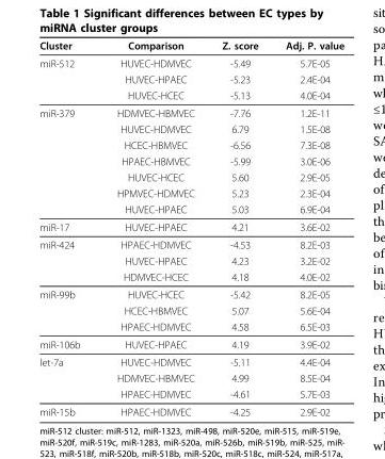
<table><thead><tr><td>Cluster</td><td>Comparison</td><td>Z. score</td><td>Adj. P. value</td></tr></thead><tbody><tr><td rowspan="3">miR-512</td><td>HUVEC-HDMVEC</td><td>-5.49</td><td>5.7E-05</td></tr><tr><td>HUVEC-HPAEC</td><td>-5.23</td><td>2.4E-04</td></tr><tr><td>HUVEC-HCEC</td><td>-5.13</td><td>4.0E-04</td></tr><tr><td rowspan="7">miR-379</td><td>HDMVEC-HBMVEC</td><td>-7.76</td><td>1.2E-11</td></tr><tr><td>HUVEC-HDMVEC</td><td>6.79</td><td>1.5E-08</td></tr><tr><td>HCEC-HBMVEC</td><td>-6.56</td><td>7.3E-08</td></tr><tr><td>HPAEC-HBMVEC</td><td>-5.99</td><td>3.0E-06</td></tr><tr><td>HUVEC-HCEC</td><td>5.60</td><td>2.9E-05</td></tr><tr><td>HPMVEC-HDMVEC</td><td>5.23</td><td>2.3E-04</td></tr><tr><td>HUVEC-HPAEC</td><td>5.03</td><td>6.9E-04</td></tr><tr><td>miR-17</td><td>HUVEC-HPAEC</td><td>4.21</td><td>3.6E-02</td></tr><tr><td rowspan="3">miR-424</td><td>HPAEC-HDMVEC</td><td>-4.53</td><td>8.2E-03</td></tr><tr><td>HUVEC-HPAEC</td><td>4.23</td><td>3.2E-02</td></tr><tr><td>HDMVEC-HCEC</td><td>4.18</td><td>4.0E-02</td></tr><tr><td rowspan="3">miR-99b</td><td>HUVEC-HCEC</td><td>-5.42</td><td>8.2E-05</td></tr><tr><td>HCEC-HBMVEC</td><td>5.07</td><td>5.6E-04</td></tr><tr><td>HPAEC-HDMVEC</td><td>4.58</td><td>6.5E-03</td></tr><tr><td>miR-106b</td><td>HUVEC-HPAEC</td><td>4.19</td><td>3.9E-02</td></tr><tr><td rowspan="3">let-7a</td><td>HUVEC-HDMVEC</td><td>-5.11</td><td>4.4E-04</td></tr><tr><td>HDMVEC-HBMVEC</td><td>4.99</td><td>8.5E-04</td></tr><tr><td>HPAEC-HDMVEC</td><td>-4.61</td><td>5.7E-03</td></tr><tr><td>miR-15b</td><td>HPAEC-HDMVEC</td><td>-4.25</td><td>2.9E-02</td></tr></tbody></table>